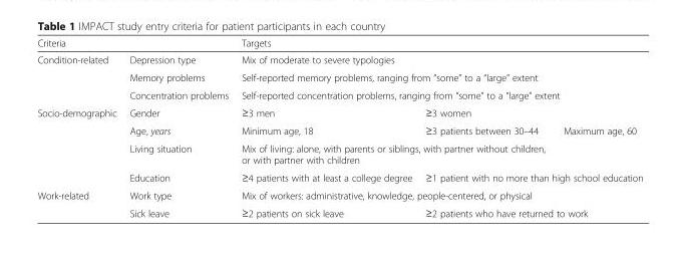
<table><thead><tr><td colspan="2">Criteria</td><td colspan="3">Targets</td></tr></thead><tbody><tr><td rowspan="3">Condition-related</td><td>Depression type</td><td colspan="3">Mix of moderate to severe typologies</td></tr><tr><td>Memory problems</td><td colspan="3">Self-reported memory problems, ranging from “some” to a “large” extent</td></tr><tr><td>Concentration problems</td><td colspan="3">Self-reported concentration problems, ranging from “some” to a “large” extent</td></tr><tr><td rowspan="4">Socio-demographic</td><td>Gender</td><td>≥3 men</td><td colspan="2">≥3 women</td></tr><tr><td>Age, years</td><td>Minimum age, 18</td><td>≥3 patients between 30–44</td><td>Maximum age, 60</td></tr><tr><td>Living situation</td><td colspan="3">Mix of living: alone, with parents or siblings, with partner without children, or with partner with children</td></tr><tr><td>Education</td><td>≥4 patients with at least a college degree</td><td colspan="2">≥1 patient with no more than high school education</td></tr><tr><td rowspan="2">Work-related</td><td>Work type</td><td colspan="3">Mix of workers: administrative, knowledge, people-centered, or physical</td></tr><tr><td>Sick leave</td><td>≥2 patients on sick leave</td><td colspan="2">≥2 patients who have returned to work</td></tr></tbody></table>